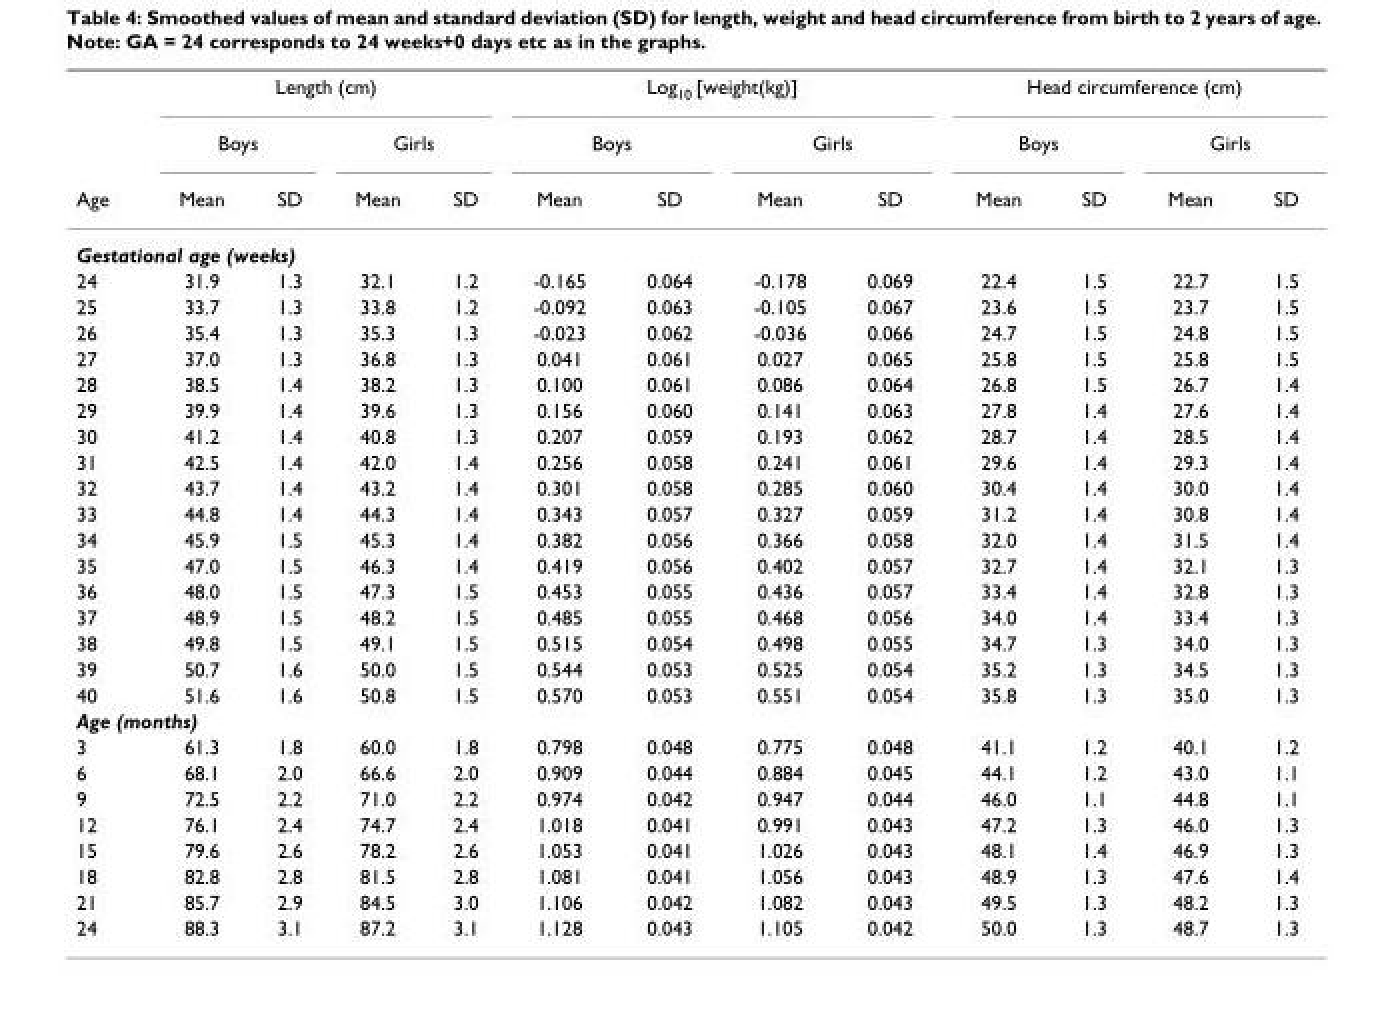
<table><thead><tr><td rowspan="3">Age</td><td colspan="4">Length (cm)</td><td colspan="4">Log<sub>10</sub> [weight(kg)]</td><td colspan="4">Head circumference (cm)</td></tr><tr><td colspan="2">Boys</td><td colspan="2">Girls</td><td colspan="2">Boys</td><td colspan="2">Girls</td><td colspan="2">Boys</td><td colspan="2">Girls</td></tr><tr><td>Mean</td><td>SD</td><td>Mean</td><td>SD</td><td>Mean</td><td>SD</td><td>Mean</td><td>SD</td><td>Mean</td><td>SD</td><td>Mean</td><td>SD</td></tr></thead><tbody><tr><td colspan="13">Gestational age (weeks)</td></tr><tr><td>24</td><td>31.9</td><td>1.3</td><td>32.1</td><td>1.2</td><td>-0.165</td><td>0.064</td><td>-0.178</td><td>0.069</td><td>22.4</td><td>1.5</td><td>22.7</td><td>1.5</td></tr><tr><td>25</td><td>33.7</td><td>1.3</td><td>33.8</td><td>1.2</td><td>-0.092</td><td>0.063</td><td>-0.105</td><td>0.067</td><td>23.6</td><td>1.5</td><td>23.7</td><td>1.5</td></tr><tr><td>26</td><td>35.4</td><td>1.3</td><td>35.3</td><td>1.3</td><td>-0.023</td><td>0.062</td><td>-0.036</td><td>0.066</td><td>24.7</td><td>1.5</td><td>24.8</td><td>1.5</td></tr><tr><td>27</td><td>37.0</td><td>1.3</td><td>36.8</td><td>1.3</td><td>0.041</td><td>0.061</td><td>0.027</td><td>0.065</td><td>25.8</td><td>1.5</td><td>25.8</td><td>1.5</td></tr><tr><td>28</td><td>38.5</td><td>1.4</td><td>38.2</td><td>1.3</td><td>0.100</td><td>0.061</td><td>0.086</td><td>0.064</td><td>26.8</td><td>1.5</td><td>26.7</td><td>1.4</td></tr><tr><td>29</td><td>39.9</td><td>1.4</td><td>39.6</td><td>1.3</td><td>0.156</td><td>0.060</td><td>0.141</td><td>0.063</td><td>27.8</td><td>1.4</td><td>27.6</td><td>1.4</td></tr><tr><td>30</td><td>41.2</td><td>1.4</td><td>40.8</td><td>1.3</td><td>0.207</td><td>0.059</td><td>0.193</td><td>0.062</td><td>28.7</td><td>1.4</td><td>28.5</td><td>1.4</td></tr><tr><td>31</td><td>42.5</td><td>1.4</td><td>42.0</td><td>1.4</td><td>0.256</td><td>0.058</td><td>0.241</td><td>0.061</td><td>29.6</td><td>1.4</td><td>29.3</td><td>1.4</td></tr><tr><td>32</td><td>43.7</td><td>1.4</td><td>43.2</td><td>1.4</td><td>0.301</td><td>0.058</td><td>0.285</td><td>0.060</td><td>30.4</td><td>1.4</td><td>30.0</td><td>1.4</td></tr><tr><td>33</td><td>44.8</td><td>1.4</td><td>44.3</td><td>1.4</td><td>0.343</td><td>0.057</td><td>0.327</td><td>0.059</td><td>31.2</td><td>1.4</td><td>30.8</td><td>1.4</td></tr><tr><td>34</td><td>45.9</td><td>1.5</td><td>45.3</td><td>1.4</td><td>0.382</td><td>0.056</td><td>0.366</td><td>0.058</td><td>32.0</td><td>1.4</td><td>31.5</td><td>1.4</td></tr><tr><td>35</td><td>47.0</td><td>1.5</td><td>46.3</td><td>1.4</td><td>0.419</td><td>0.056</td><td>0.402</td><td>0.057</td><td>32.7</td><td>1.4</td><td>32.1</td><td>1.3</td></tr><tr><td>36</td><td>48.0</td><td>1.5</td><td>47.3</td><td>1.5</td><td>0.453</td><td>0.055</td><td>0.436</td><td>0.057</td><td>33.4</td><td>1.4</td><td>32.8</td><td>1.3</td></tr><tr><td>37</td><td>48.9</td><td>1.5</td><td>48.2</td><td>1.5</td><td>0.485</td><td>0.055</td><td>0.468</td><td>0.056</td><td>34.0</td><td>1.4</td><td>33.4</td><td>1.3</td></tr><tr><td>38</td><td>49.8</td><td>1.5</td><td>49.1</td><td>1.5</td><td>0.515</td><td>0.054</td><td>0.498</td><td>0.055</td><td>34.7</td><td>1.3</td><td>34.0</td><td>1.3</td></tr><tr><td>39</td><td>50.7</td><td>1.6</td><td>50.0</td><td>1.5</td><td>0.544</td><td>0.053</td><td>0.525</td><td>0.054</td><td>35.2</td><td>1.3</td><td>34.5</td><td>1.3</td></tr><tr><td>40</td><td>51.6</td><td>1.6</td><td>50.8</td><td>1.5</td><td>0.570</td><td>0.053</td><td>0.551</td><td>0.054</td><td>35.8</td><td>1.3</td><td>35.0</td><td>1.3</td></tr><tr><td colspan="13">Age (months)</td></tr><tr><td>3</td><td>61.3</td><td>1.8</td><td>60.0</td><td>1.8</td><td>0.798</td><td>0.048</td><td>0.775</td><td>0.048</td><td>41.1</td><td>1.2</td><td>40.1</td><td>1.2</td></tr><tr><td>6</td><td>68.1</td><td>2.0</td><td>66.6</td><td>2.0</td><td>0.909</td><td>0.044</td><td>0.884</td><td>0.045</td><td>44.1</td><td>1.2</td><td>43.0</td><td>1.1</td></tr><tr><td>9</td><td>72.5</td><td>2.2</td><td>71.0</td><td>2.2</td><td>0.974</td><td>0.042</td><td>0.947</td><td>0.044</td><td>46.0</td><td>1.1</td><td>44.8</td><td>1.1</td></tr><tr><td>12</td><td>76.1</td><td>2.4</td><td>74.7</td><td>2.4</td><td>1.018</td><td>0.041</td><td>0.991</td><td>0.043</td><td>47.2</td><td>1.3</td><td>46.0</td><td>1.3</td></tr><tr><td>15</td><td>79.6</td><td>2.6</td><td>78.2</td><td>2.6</td><td>1.053</td><td>0.041</td><td>1.026</td><td>0.043</td><td>48.1</td><td>1.4</td><td>46.9</td><td>1.3</td></tr><tr><td>18</td><td>82.8</td><td>2.8</td><td>81.5</td><td>2.8</td><td>1.081</td><td>0.041</td><td>1.056</td><td>0.043</td><td>48.9</td><td>1.3</td><td>47.6</td><td>1.4</td></tr><tr><td>21</td><td>85.7</td><td>2.9</td><td>84.5</td><td>3.0</td><td>1.106</td><td>0.042</td><td>1.082</td><td>0.043</td><td>49.5</td><td>1.3</td><td>48.2</td><td>1.3</td></tr><tr><td>24</td><td>88.3</td><td>3.1</td><td>87.2</td><td>3.1</td><td>1.128</td><td>0.043</td><td>1.105</td><td>0.042</td><td>50.0</td><td>1.3</td><td>48.7</td><td>1.3</td></tr></tbody></table>